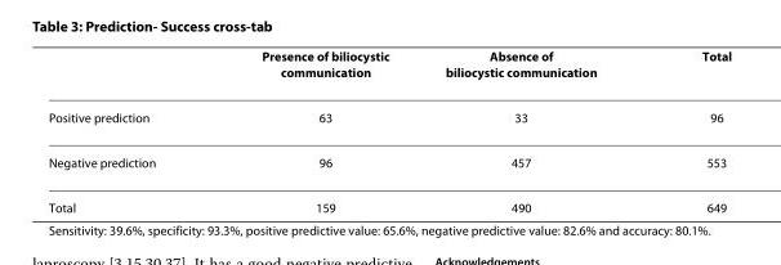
<table><thead><tr><td></td><td>Presence of biliocystic communication</td><td>Absence of biliocystic communication</td><td>Total</td></tr></thead><tbody><tr><td>Positive prediction</td><td>63</td><td>33</td><td>96</td></tr><tr><td>Negative prediction</td><td>96</td><td>457</td><td>553</td></tr><tr><td>Total</td><td>159</td><td>490</td><td>649</td></tr></tbody></table>